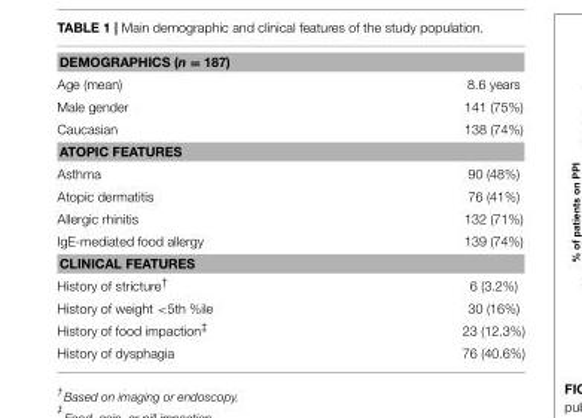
<table><tbody><tr><td colspan="2">DEMOGRAPHICS (n = 187)</td></tr><tr><td>Age (mean)</td><td>8.6 years</td></tr><tr><td>Male gender</td><td>141 (75%)</td></tr><tr><td>Caucasian</td><td>138 (74%)</td></tr><tr><td colspan="2">ATOPIC FEATURES</td></tr><tr><td>Asthma</td><td>90 (48%)</td></tr><tr><td>Atopic dermatitis</td><td>76 (41%)</td></tr><tr><td>Allergic rhinitis</td><td>132 (71%)</td></tr><tr><td>IgE-mediated food allergy</td><td>139 (74%)</td></tr><tr><td colspan="2">CLINICAL FEATURES</td></tr><tr><td>History of stricture<sup>†</sup></td><td>6 (3.2%)</td></tr><tr><td>History of weight &lt;5th %ile</td><td>30 (16%)</td></tr><tr><td>History of food impaction<sup>‡</sup></td><td>23 (12.3%)</td></tr><tr><td>History of dysphagia</td><td>76 (40.6%)</td></tr></tbody></table>